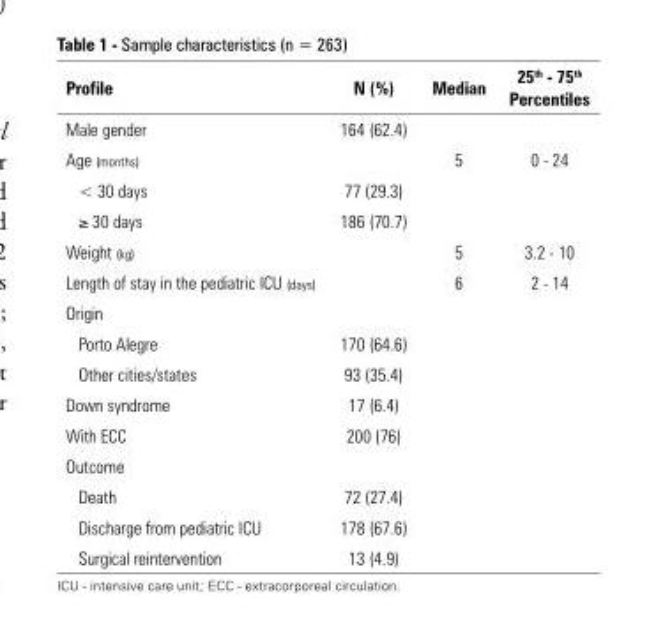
<table><thead><tr><td>Profile</td><td>N (%)</td><td>Median</td><td>25<sup>th</sup> - 75<sup>th</sup> Percentiles</td></tr></thead><tbody><tr><td>Male gender</td><td>164 (62.4)</td><td></td><td></td></tr><tr><td>Age (months)</td><td></td><td>5</td><td>0 - 24</td></tr><tr><td>&lt; 30 days</td><td>77 (29.3)</td><td></td><td></td></tr><tr><td>≥ 30 days</td><td>186 (70.7)</td><td></td><td></td></tr><tr><td>Weight (kg)</td><td></td><td>5</td><td>3.2 - 10</td></tr><tr><td>Length of stay in the pediatric ICU (days)</td><td></td><td>6</td><td>2 - 14</td></tr><tr><td colspan="4">Origin</td></tr><tr><td>Porto Alegre</td><td>170 (64.6)</td><td></td><td></td></tr><tr><td>Other cities/states</td><td>93 (35.4)</td><td></td><td></td></tr><tr><td>Down syndrome</td><td>17 (6.4)</td><td></td><td></td></tr><tr><td>With ECC</td><td>200 (76)</td><td></td><td></td></tr><tr><td colspan="4">Outcome</td></tr><tr><td>Death</td><td>72 (27.4)</td><td></td><td></td></tr><tr><td>Discharge from pediatric ICU</td><td>178 (67.6)</td><td></td><td></td></tr><tr><td>Surgical reintervention</td><td>13 (4.9)</td><td></td><td></td></tr></tbody></table>